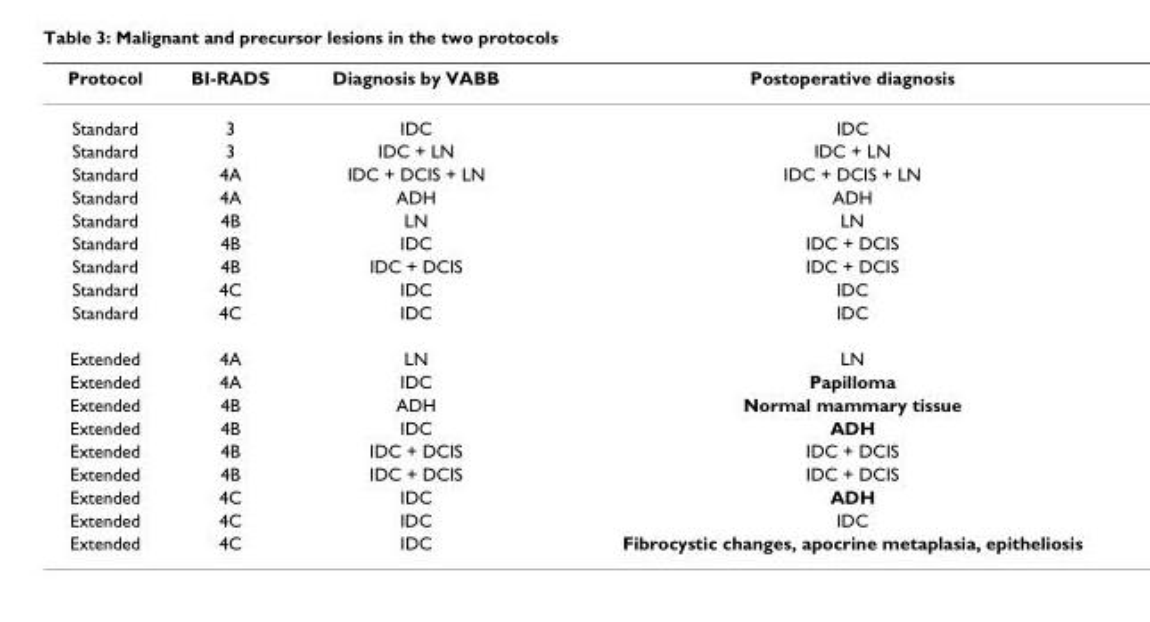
<table><thead><tr><td>Protocol</td><td>BI-RADS</td><td>Diagnosis by VABB</td><td>Postoperative diagnosis</td></tr></thead><tbody><tr><td>Standard</td><td>3</td><td>IDC</td><td>IDC</td></tr><tr><td>Standard</td><td>3</td><td>IDC + LN</td><td>IDC + LN</td></tr><tr><td>Standard</td><td>4A</td><td>IDC + DCIS + LN</td><td>IDC + DCIS + LN</td></tr><tr><td>Standard</td><td>4A</td><td>ADH</td><td>ADH</td></tr><tr><td>Standard</td><td>4B</td><td>LN</td><td>LN</td></tr><tr><td>Standard</td><td>4B</td><td>IDC</td><td>IDC + DCIS</td></tr><tr><td>Standard</td><td>4B</td><td>IDC + DCIS</td><td>IDC + DCIS</td></tr><tr><td>Standard</td><td>4C</td><td>IDC</td><td>IDC</td></tr><tr><td>Standard</td><td>4C</td><td>IDC</td><td>IDC</td></tr><tr><td>Extended</td><td>4A</td><td>LN</td><td>LN</td></tr><tr><td>Extended</td><td>4A</td><td>IDC</td><td>Papilloma</td></tr><tr><td>Extended</td><td>4B</td><td>ADH</td><td>Normal mammary tissue</td></tr><tr><td>Extended</td><td>4B</td><td>IDC</td><td>ADH</td></tr><tr><td>Extended</td><td>4B</td><td>IDC + DCIS</td><td>IDC + DCIS</td></tr><tr><td>Extended</td><td>4B</td><td>IDC + DCIS</td><td>IDC + DCIS</td></tr><tr><td>Extended</td><td>4C</td><td>IDC</td><td>ADH</td></tr><tr><td>Extended</td><td>4C</td><td>IDC</td><td>IDC</td></tr><tr><td>Extended</td><td>4C</td><td>IDC</td><td>Fibrocystic changes, apocrine metaplasia, epitheliosis</td></tr></tbody></table>